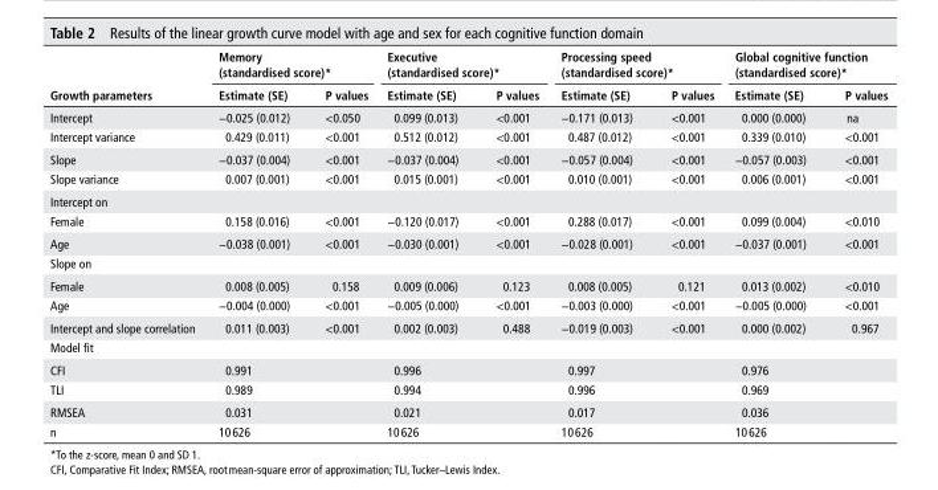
<table><thead><tr><td rowspan="2">Growth parameters</td><td colspan="2">Memory (standardised score)*</td><td colspan="2">executive (standardised score)*</td><td colspan="2">Processing speed (standardised score)*</td><td colspan="2">Global cognitive function (standardised score)*</td></tr><tr><td>estimate (se)</td><td>P values</td><td>estimate (se)</td><td>P values</td><td>estimate (se)</td><td>P values</td><td>estimate (se)</td><td>P values</td></tr></thead><tbody><tr><td>Intercept</td><td>−0.025 (0.012)</td><td>&lt;0.050</td><td>0.099 (0.013)</td><td>&lt;0.001</td><td>−0.171 (0.013)</td><td>&lt;0.001</td><td>0.000 (0.000)</td><td>na</td></tr><tr><td>Intercept variance</td><td>0.429 (0.011)</td><td>&lt;0.001</td><td>0.512 (0.012)</td><td>&lt;0.001</td><td>0.487 (0.012)</td><td>&lt;0.001</td><td>0.339 (0.010)</td><td>&lt;0.001</td></tr><tr><td>Slope</td><td>−0.037 (0.004)</td><td>&lt;0.001</td><td>−0.037 (0.004)</td><td>&lt;0.001</td><td>−0.057 (0.004)</td><td>&lt;0.001</td><td>−0.057 (0.003)</td><td>&lt;0.001</td></tr><tr><td>Slope variance</td><td>0.007 (0.001)</td><td>&lt;0.001</td><td>0.015 (0.001)</td><td>&lt;0.001</td><td>0.010 (0.001)</td><td>&lt;0.001</td><td>0.006 (0.001)</td><td>&lt;0.001</td></tr><tr><td colspan="9">Intercept on</td></tr><tr><td>Female</td><td>0.158 (0.016)</td><td>&lt;0.001</td><td>−0.120 (0.017)</td><td>&lt;0.001</td><td>0.288 (0.017)</td><td>&lt;0.001</td><td>0.099 (0.004)</td><td>&lt;0.010</td></tr><tr><td>Age</td><td>−0.038 (0.001)</td><td>&lt;0.001</td><td>−0.030 (0.001)</td><td>&lt;0.001</td><td>−0.028 (0.001)</td><td>&lt;0.001</td><td>−0.037 (0.001)</td><td>&lt;0.001</td></tr><tr><td colspan="9">Slope on</td></tr><tr><td>Female</td><td>0.008 (0.005)</td><td>0.158</td><td>0.009 (0.006)</td><td>0.123</td><td>0.008 (0.005)</td><td>0.121</td><td>0.013 (0.002)</td><td>&lt;0.010</td></tr><tr><td>Age</td><td>−0.004 (0.000)</td><td>&lt;0.001</td><td>−0.005 (0.000)</td><td>&lt;0.001</td><td>−0.003 (0.000)</td><td>&lt;0.001</td><td>−0.005 (0.000)</td><td>&lt;0.001</td></tr><tr><td>Intercept and slope correlation</td><td>0.011 (0.003)</td><td>&lt;0.001</td><td>0.002 (0.003)</td><td>0.488</td><td>−0.019 (0.003)</td><td>&lt;0.001</td><td>0.000 (0.002)</td><td>0.967</td></tr><tr><td colspan="9">Model fit</td></tr><tr><td>CFI</td><td>0.991</td><td></td><td>0.996</td><td></td><td>0.997</td><td></td><td>0.976</td><td></td></tr><tr><td>TLI</td><td>0.989</td><td></td><td>0.994</td><td></td><td>0.996</td><td></td><td>0.969</td><td></td></tr><tr><td>RMSEA</td><td>0.031</td><td></td><td>0.021</td><td></td><td>0.017</td><td></td><td>0.036</td><td></td></tr><tr><td>n</td><td>10 626</td><td></td><td>10 626</td><td></td><td>10 626</td><td></td><td>10 626</td><td></td></tr></tbody></table>